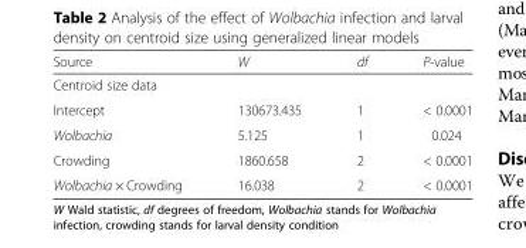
<table><thead><tr><td>Source</td><td>W</td><td>df</td><td>P-value</td></tr></thead><tbody><tr><td colspan="4">Centroid size data</td></tr><tr><td>Intercept</td><td>130673.435</td><td>1</td><td>&lt; 0.0001</td></tr><tr><td>Wolbachia</td><td>5.125</td><td>1</td><td>0.024</td></tr><tr><td>Crowding</td><td>1860.658</td><td>2</td><td>&lt; 0.0001</td></tr><tr><td>Wolbachia × Crowding</td><td>16.038</td><td>2</td><td>&lt; 0.0001</td></tr></tbody></table>